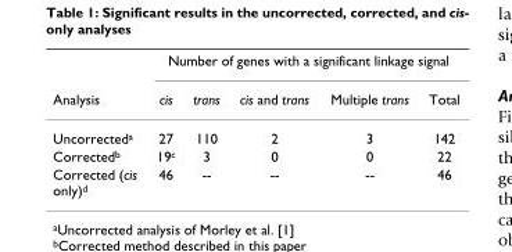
<table><thead><tr><td rowspan="2">Analysis</td><td colspan="5">Number of genes with a significant linkage signal</td></tr><tr><td>cis</td><td>trans</td><td>cis and trans</td><td>Multiple trans</td><td>Total</td></tr></thead><tbody><tr><td>Uncorrected<sup>a</sup></td><td>27</td><td>110</td><td>2</td><td>3</td><td>142</td></tr><tr><td>Corrected<sup>b</sup></td><td>19<sup>c</sup></td><td>3</td><td>0</td><td>0</td><td>22</td></tr><tr><td>Corrected (cis only)<sup>d</sup></td><td>46</td><td>--</td><td>--</td><td>--</td><td>46</td></tr></tbody></table>